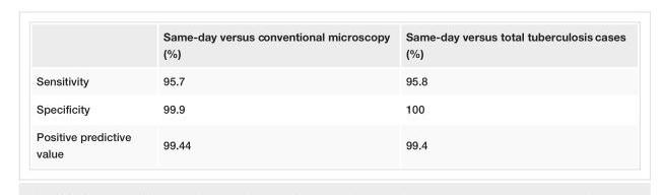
<table><thead><tr><td></td><td>Same-day versus conventional microscopy (%)</td><td>Same-day versus total tuberculosis cases (%)</td></tr></thead><tbody><tr><td>Sensitivity</td><td>95.7</td><td>95.8</td></tr><tr><td>Specificity</td><td>99.9</td><td>100</td></tr><tr><td>Positive predictive value</td><td>99.44</td><td>99.4</td></tr></tbody></table>